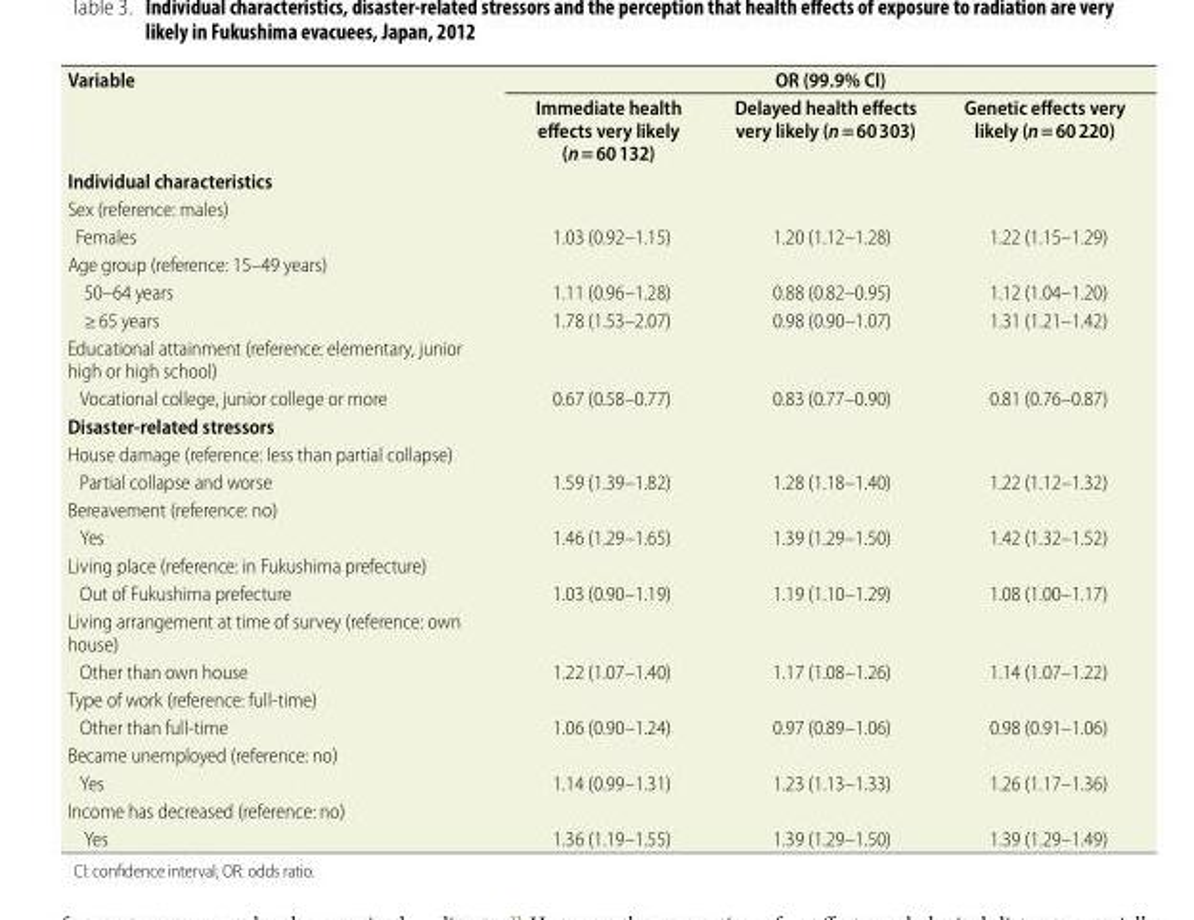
<table><tbody><tr><td rowspan="2">Variable</td><td colspan="3">OR (99.9% CI)</td></tr><tr><td>Immediate health effects very likely (n = 60 132)</td><td>Delayed health effects very likely (n = 60 303)</td><td>Genetic effects very likely (n = 60 220)</td></tr><tr><td colspan="4">Individual characteristics</td></tr><tr><td colspan="4">Sex (reference: males)</td></tr><tr><td>Females</td><td>1.03 (0.92–1.15)</td><td>1.20 (1.12–1.28)</td><td>1.22 (1.15–1.29)</td></tr><tr><td colspan="4">Age group (reference: 15–49 years)</td></tr><tr><td>50–64 years</td><td>1.11 (0.96–1.28)</td><td>0.88 (0.82–0.95)</td><td>1.12 (1.04–1.20)</td></tr><tr><td>≥ 65 years</td><td>1.78 (1.53–2.07)</td><td>0.98 (0.90–1.07)</td><td>1.31 (1.21–1.42)</td></tr><tr><td colspan="4">Educational attainment (reference: elementary, junior high or high school)</td></tr><tr><td>Vocational college, junior college or more</td><td>0.67 (0.58–0.77)</td><td>0.83 (0.77–0.90)</td><td>0.81 (0.76–0.87)</td></tr><tr><td colspan="4">Disaster-related stressors</td></tr><tr><td colspan="4">House damage (reference: less than partial collapse)</td></tr><tr><td>Partial collapse and worse</td><td>1.59 (1.39–1.82)</td><td>1.28 (1.18–1.40)</td><td>1.22 (1.12–1.32)</td></tr><tr><td colspan="4">Bereavement (reference: no)</td></tr><tr><td>Yes</td><td>1.46 (1.29–1.65)</td><td>1.39 (1.29–1.50)</td><td>1.42 (1.32–1.52)</td></tr><tr><td colspan="4">Living place (reference: in Fukushima prefecture)</td></tr><tr><td>Out of Fukushima prefecture</td><td>1.03 (0.90–1.19)</td><td>1.19 (1.10–1.29)</td><td>1.08 (1.00–1.17)</td></tr><tr><td colspan="4">Living arrangement at time of survey (reference: own house)</td></tr><tr><td>Other than own house</td><td>1.22 (1.07–1.40)</td><td>1.17 (1.08–1.26)</td><td>1.14 (1.07–1.22)</td></tr><tr><td colspan="4">Type of work (reference: full-time)</td></tr><tr><td>Other than full-time</td><td>1.06 (0.90–1.24)</td><td>0.97 (0.89–1.06)</td><td>0.98 (0.91–1.06)</td></tr><tr><td colspan="4">Became unemployed (reference: no)</td></tr><tr><td>Yes</td><td>1.14 (0.99–1.31)</td><td>1.23 (1.13–1.33)</td><td>1.26 (1.17–1.36)</td></tr><tr><td colspan="4">Income has decreased (reference: no)</td></tr><tr><td>Yes</td><td>1.36 (1.19–1.55)</td><td>1.39 (1.29–1.50)</td><td>1.39 (1.29–1.49)</td></tr></tbody></table>